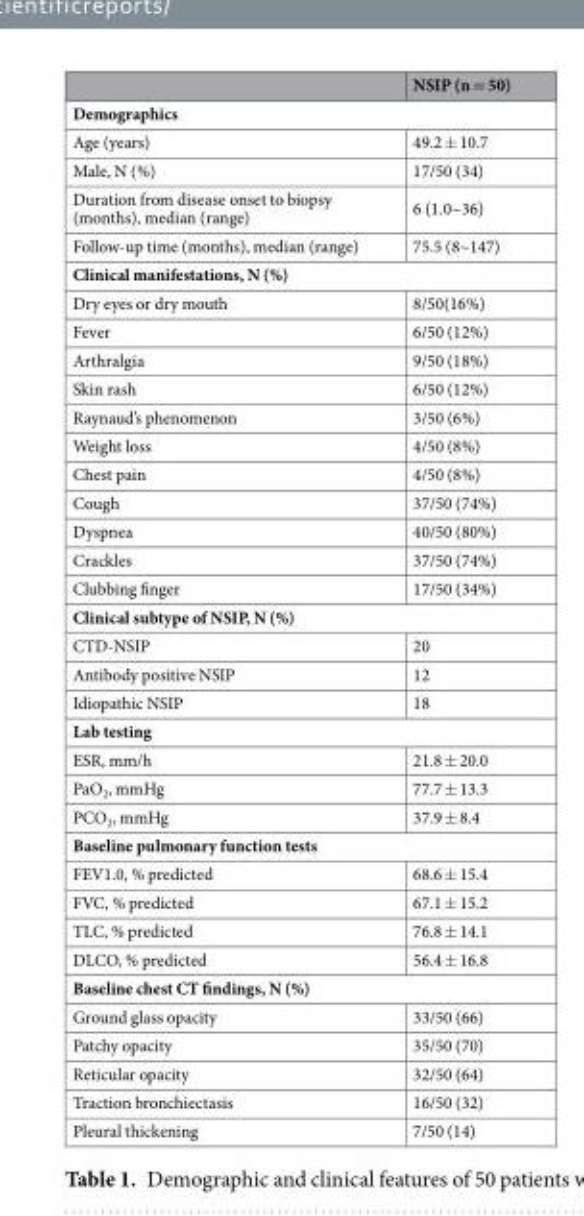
<table><thead><tr><td></td><td>NSIP (n = 50)</td></tr></thead><tbody><tr><td colspan="2">Demographics</td></tr><tr><td>Age (years)</td><td>49.2 ± 10.7</td></tr><tr><td>Male, N (%)</td><td>17/50 (34)</td></tr><tr><td>Duration from disease onset to biopsy (months), median (range)</td><td>6 (1.0~36)</td></tr><tr><td>Follow-up time (months), median (range)</td><td>75.5 (8~147)</td></tr><tr><td colspan="2">Clinical manifestations, N (%)</td></tr><tr><td>Dry eyes or dry mouth</td><td>8/50(16%)</td></tr><tr><td>Fever</td><td>6/50 (12%)</td></tr><tr><td>Arthralgia</td><td>9/50 (18%)</td></tr><tr><td>Skin rash</td><td>6/50 (12%)</td></tr><tr><td>Raynaud’s phenomenon</td><td>3/50 (6%)</td></tr><tr><td>Weight loss</td><td>4/50 (8%)</td></tr><tr><td>Chest pain</td><td>4/50 (8%)</td></tr><tr><td>Cough</td><td>37/50 (74%)</td></tr><tr><td>Dyspnea</td><td>40/50 (80%)</td></tr><tr><td>Crackles</td><td>37/50 (74%)</td></tr><tr><td>Clubbing finger</td><td>17/50 (34%)</td></tr><tr><td colspan="2">Clinical subtype of NSIP, N (%)</td></tr><tr><td>CTD-NSIP</td><td>20</td></tr><tr><td>Antibody positive NSIP</td><td>12</td></tr><tr><td>Idiopathic NSIP</td><td>18</td></tr><tr><td colspan="2">Lab testing</td></tr><tr><td>ESR, mm/h</td><td>21.8 ± 20.0</td></tr><tr><td>PaO<sub>2</sub>, mmHg</td><td>77.7 ± 13.3</td></tr><tr><td>PCO<sub>2</sub>, mmHg</td><td>37.9 ± 8.4</td></tr><tr><td colspan="2">Baseline pulmonary function tests</td></tr><tr><td>FEV1.0, % predicted</td><td>68.6 ± 15.4</td></tr><tr><td>FVC, % predicted</td><td>67.1 ± 15.2</td></tr><tr><td>TLC, % predicted</td><td>76.8 ± 14.1</td></tr><tr><td>DLCO, % predicted</td><td>56.4 ± 16.8</td></tr><tr><td colspan="2">Baseline chest CT findings, N (%)</td></tr><tr><td>Ground glass opacity</td><td>33/50 (66)</td></tr><tr><td>Patchy opacity</td><td>35/50 (70)</td></tr><tr><td>Reticular opacity</td><td>32/50 (64)</td></tr><tr><td>Traction bronchiectasis</td><td>16/50 (32)</td></tr><tr><td>Pleural thickening</td><td>7/50 (14)</td></tr></tbody></table>